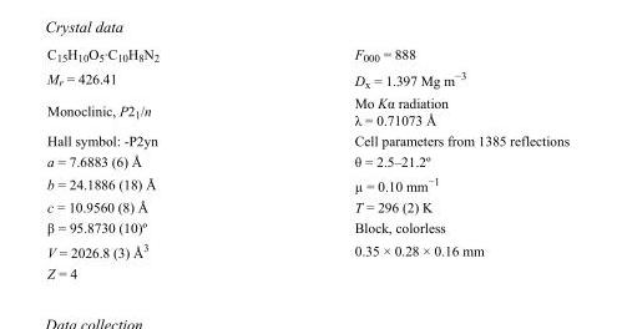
<table><tbody><tr><td>C<sub>15</sub>H<sub>10</sub>O<sub>5</sub>·C<sub>10</sub>H<sub>8</sub>N<sub>2</sub></td><td>F<sub>000</sub> = 888</td></tr><tr><td>M<sub>r</sub> = 426.41</td><td>D<sub>x</sub> = 1.397 Mg m<sup>−3</sup></td></tr><tr><td>Monoclinic, P2<sub>1</sub>/n</td><td>Mo Kα radiation λ = 0.71073 Å</td></tr><tr><td>Hall symbol: -P2yn</td><td>Cell parameters from 1385 reflections</td></tr><tr><td>a = 7.6883 (6) Å</td><td>θ = 2.5–21.2º</td></tr><tr><td>b = 24.1886 (18) Å</td><td>µ = 0.10 mm<sup>−1</sup></td></tr><tr><td>c = 10.9560 (8) Å</td><td>T = 296 (2) K</td></tr><tr><td>β = 95.8730 (10)º</td><td>Block, colorless</td></tr><tr><td>V = 2026.8 (3) Å<sup>3</sup></td><td>0.35 × 0.28 × 0.16 mm</td></tr><tr><td>Z = 4</td><td></td></tr></tbody></table>